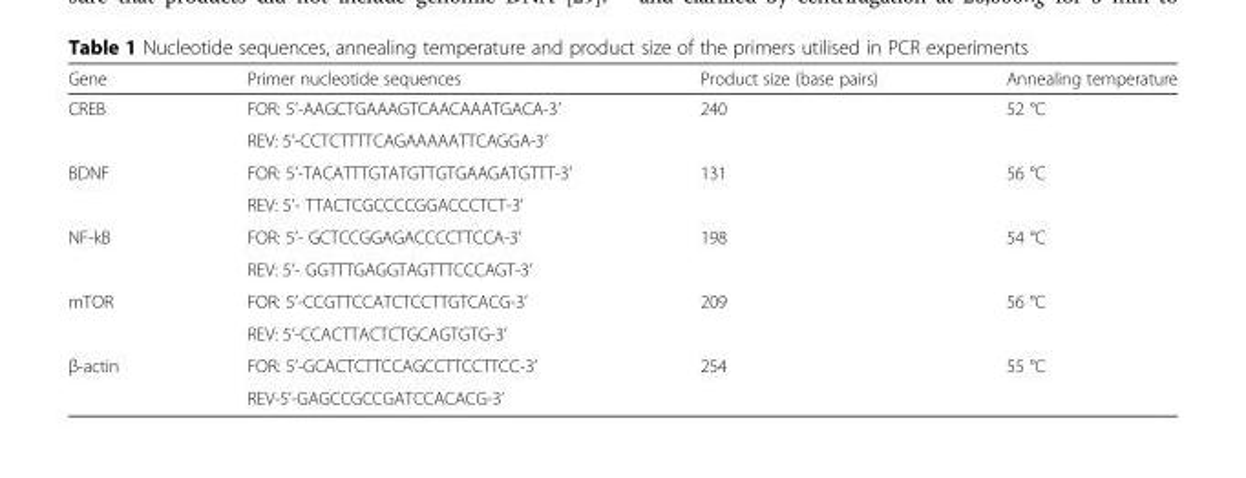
<table><thead><tr><td>Gene</td><td>Primer nucleotide sequences</td><td>Product size (base pairs)</td><td>Annealing temperature</td></tr></thead><tbody><tr><td rowspan="2">CREB</td><td>FOR: 5’-AAGCTGAAAGTCAACAAATGACA-3’</td><td rowspan="2">240</td><td rowspan="2">52 °C</td></tr><tr><td>REV: 5’-CCTCTTTTCAGAAAAATTCAGGA-3’</td></tr><tr><td rowspan="2">BDNF</td><td>FOR: 5’-TACATTTGTATGTTGTGAAGATGTTT-3’</td><td rowspan="2">131</td><td rowspan="2">56 °C</td></tr><tr><td>REV: 5’- TTACTCGCCCCGGACCCTCT-3’</td></tr><tr><td rowspan="2">NF-kB</td><td>FOR: 5’- GCTCCGGAGACCCCTTCCA-3’</td><td rowspan="2">198</td><td rowspan="2">54 °C</td></tr><tr><td>REV: 5’- GGTTTGAGGTAGTTTCCCAGT-3’</td></tr><tr><td rowspan="2">mTOR</td><td>FOR: 5’-CCGTTCCATCTCCTTGTCACG-3’</td><td rowspan="2">209</td><td rowspan="2">56 °C</td></tr><tr><td>REV: 5’-CCACTTACTCTGCAGTGTG-3’</td></tr><tr><td rowspan="2">β-actin</td><td>FOR: 5’-GCACTCTTCCAGCCTTCCTTCC-3’</td><td rowspan="2">254</td><td rowspan="2">55 °C</td></tr><tr><td>REV-5’-GAGCCGCCGATCCACACG-3’</td></tr></tbody></table>